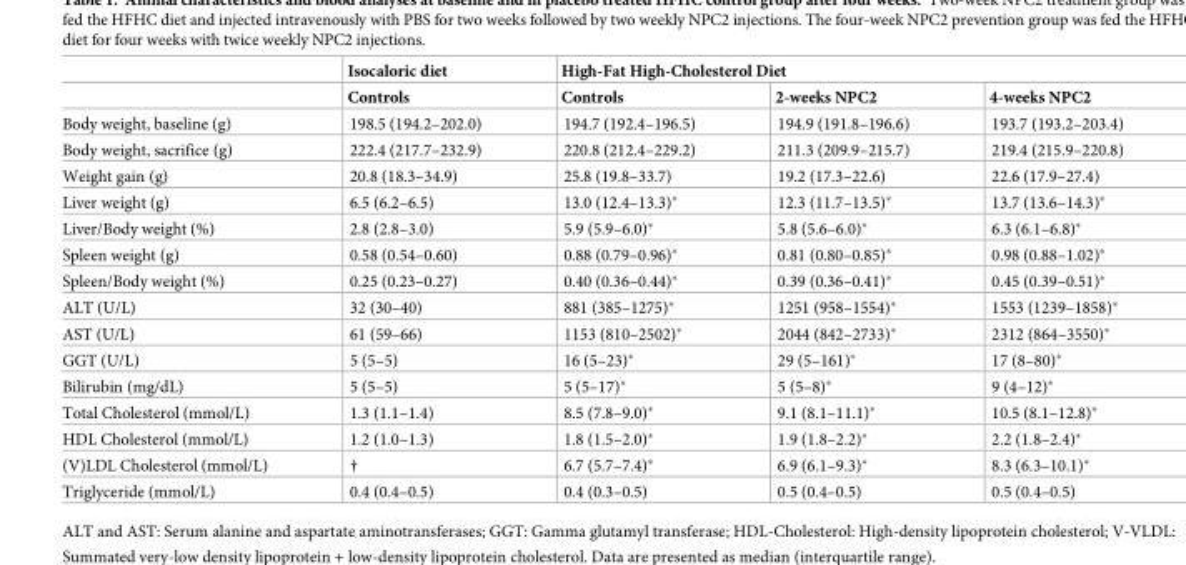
<table><thead><tr><td rowspan="2"></td><td rowspan="2">Isocaloric diet Controls</td><td colspan="3">High-Fat High-Cholesterol Diet</td></tr><tr><td>Controls</td><td>2-weeks NPC2</td><td>4-weeks NPC2</td></tr></thead><tbody><tr><td>Body weight, baseline (g)</td><td>198.5 (194.2–202.0)</td><td>194.7 (192.4–196.5)</td><td>194.9 (191.8–196.6)</td><td>193.7 (193.2–203.4)</td></tr><tr><td>Body weight, sacrifice (g)</td><td>222.4 (217.7–232.9)</td><td>220.8 (212.4–229.2)</td><td>211.3 (209.9–215.7)</td><td>219.4 (215.9–220.8)</td></tr><tr><td>Weight gain (g)</td><td>20.8 (18.3–34.9)</td><td>25.8 (19.8–33.7)</td><td>19.2 (17.3–22.6)</td><td>22.6 (17.9–27.4)</td></tr><tr><td>Liver weight (g)</td><td>6.5 (6.2–6.5)</td><td>13.0 (12.4–13.3)*</td><td>12.3 (11.7–13.5)*</td><td>13.7 (13.6–14.3)*</td></tr><tr><td>Liver/Body weight (%)</td><td>2.8 (2.8–3.0)</td><td>5.9 (5.9–6.0)*</td><td>5.8 (5.6–6.0)*</td><td>6.3 (6.1–6.8)*</td></tr><tr><td>Spleen weight (g)</td><td>0.58 (0.54–0.60)</td><td>0.88 (0.79–0.96)*</td><td>0.81 (0.80–0.85)*</td><td>0.98 (0.88–1.02)*</td></tr><tr><td>Spleen/Body weight (%)</td><td>0.25 (0.23–0.27)</td><td>0.40 (0.36–0.44)*</td><td>0.39 (0.36–0.41)*</td><td>0.45 (0.39–0.51)*</td></tr><tr><td>ALT (U/L)</td><td>32 (30–40)</td><td>881 (385–1275)*</td><td>1251 (958–1554)*</td><td>1553 (1239–1858)*</td></tr><tr><td>AST (U/L)</td><td>61 (59–66)</td><td>1153 (810–2502)*</td><td>2044 (842–2733)*</td><td>2312 (864–3550)*</td></tr><tr><td>GGT (U/L)</td><td>5 (5–5)</td><td>16 (5–23)*</td><td>29 (5–161)*</td><td>17 (8–80)*</td></tr><tr><td>Bilirubin (mg/dL)</td><td>5 (5–5)</td><td>5 (5–17)*</td><td>5 (5–8)*</td><td>9 (4–12)*</td></tr><tr><td>Total Cholesterol (mmol/L)</td><td>1.3 (1.1–1.4)</td><td>8.5 (7.8–9.0)*</td><td>9.1 (8.1–11.1)*</td><td>10.5 (8.1–12.8)*</td></tr><tr><td>HDL Cholesterol (mmol/L)</td><td>1.2 (1.0–1.3)</td><td>1.8 (1.5–2.0)*</td><td>1.9 (1.8–2.2)*</td><td>2.2 (1.8–2.4)*</td></tr><tr><td>(V)LDL Cholesterol (mmol/L)</td><td>†</td><td>6.7 (5.7–7.4)*</td><td>6.9 (6.1–9.3)*</td><td>8.3 (6.3–10.1)*</td></tr><tr><td>Triglyceride (mmol/L)</td><td>0.4 (0.4–0.5)</td><td>0.4 (0.3–0.5)</td><td>0.5 (0.4–0.5)</td><td>0.5 (0.4–0.5)</td></tr></tbody></table>